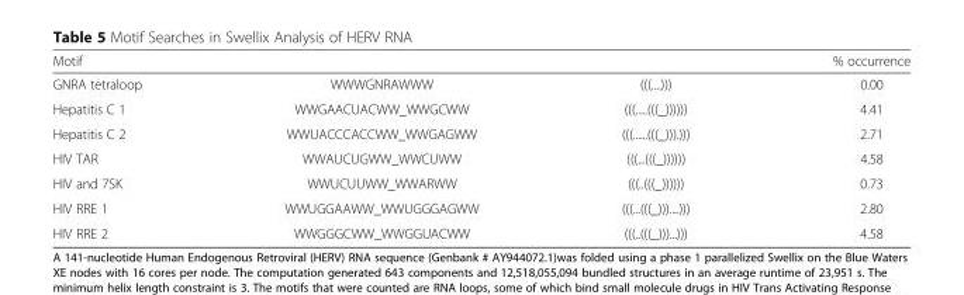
<table><thead><tr><td colspan="3">Motif</td><td rowspan="2">% occurrence 0.00</td></tr><tr><td>GNRA tetraloop</td><td>WWWGNRAWWW</td><td>(((....)))</td></tr></thead><tbody><tr><td>Hepatitis C 1</td><td>WWGAACUACWW_WWGCWW</td><td>(((.....(((_))))))</td><td>4.41</td></tr><tr><td>Hepatitis C 2</td><td>WWUACCCACCWW_WWGAGWW</td><td>(((......(((_))).)))</td><td>2.71</td></tr><tr><td>HIV TAR</td><td>WWAUCUGWW_WWCUWW</td><td>(((...(((_))))))</td><td>4.58</td></tr><tr><td>HIV and 7SK</td><td>WWUCUUWW_WWARWW</td><td>(((..(((_))))))</td><td>0.73</td></tr><tr><td>HIV RRE 1</td><td>WWUGGAAWW_WWUGGGAGWW</td><td>(((...(((_)))....)))</td><td>2.80</td></tr><tr><td>HIV RRE 2</td><td>WWGGGCWW_WWGGUACWW</td><td>(((..(((_)))...)))</td><td>4.58</td></tr></tbody></table>